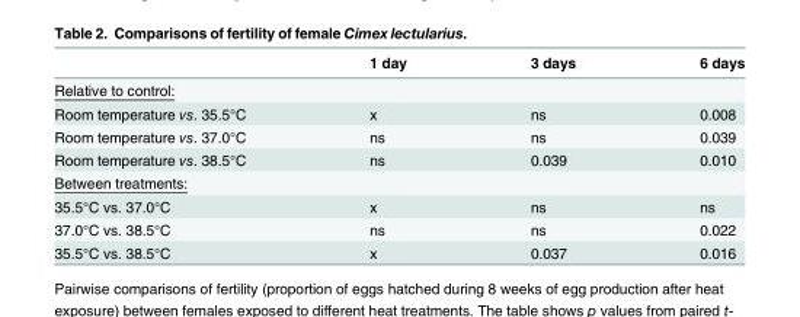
<table><thead><tr><td></td><td>1 day</td><td>3 days</td><td>6 days</td></tr></thead><tbody><tr><td colspan="4">Relative to control:</td></tr><tr><td>Room temperature vs. 35.5°C</td><td>x</td><td>ns</td><td>0.008</td></tr><tr><td>Room temperature vs. 37.0°C</td><td>ns</td><td>ns</td><td>0.039</td></tr><tr><td>Room temperature vs. 38.5°C</td><td>ns</td><td>0.039</td><td>0.010</td></tr><tr><td colspan="4">Between treatments:</td></tr><tr><td>35.5°C vs. 37.0°C</td><td>x</td><td>ns</td><td>ns</td></tr><tr><td>37.0°C vs. 38.5°C</td><td>ns</td><td>ns</td><td>0.022</td></tr><tr><td>35.5°C vs. 38.5°C</td><td>x</td><td>0.037</td><td>0.016</td></tr></tbody></table>